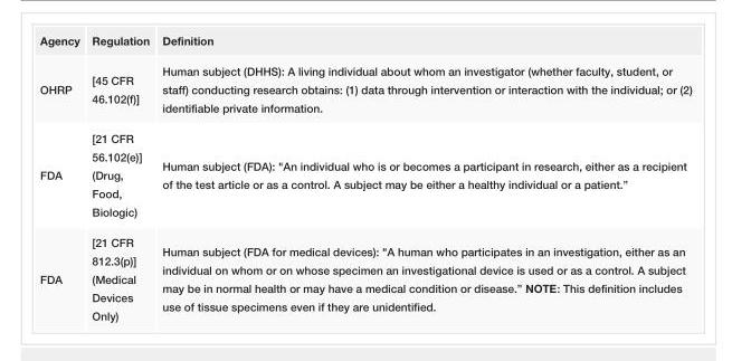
<table><tbody><tr><td>Agency</td><td>Regulation</td><td>Definition</td></tr><tr><td>OHRP</td><td>[45 CFR 46.102(f)]</td><td>Human subject (DHHS): A living individual about whom an investigator (whether faculty, student, or staff) conducting research obtains: (1) data through intervention or interaction with the individual; or (2) identifiable private information.</td></tr><tr><td>FDA</td><td>[21 CFR 56.102(e)] (Drug, Food, Biologic)</td><td>Human subject (FDA): &quot;An individual who is or becomes a participant in research, either as a recipient of the test article or as a control. A subject may be either a healthy individual or a patient.”</td></tr><tr><td>FDA</td><td>[21 CFR 812.3(p)] (Medical Devices Only)</td><td>Human subject (FDA for medical devices): &quot;A human who participates in an investigation, either as an individual on whom or on whose specimen an investigational device is used or as a control. A subject may be in normal health or may have a medical condition or disease.” NOTE: This definition includes use of tissue specimens even if they are unidentified.</td></tr></tbody></table>